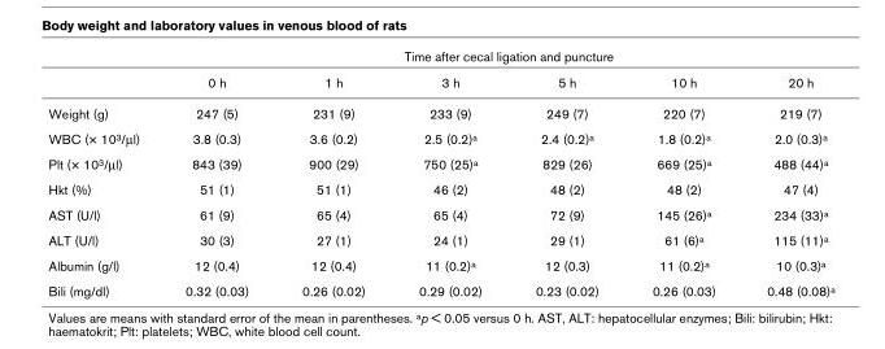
<table><thead><tr><td rowspan="2"></td><td colspan="6">Time after cecal ligation and puncture</td></tr><tr><td>0 h</td><td>1 h</td><td>3 h</td><td>5 h</td><td>10 h</td><td>20 h</td></tr></thead><tbody><tr><td>Weight (g)</td><td>247 (5)</td><td>231 (9)</td><td>233 (9)</td><td>249 (7)</td><td>220 (7)</td><td>219 (7)</td></tr><tr><td>WBC (× 103/µl)</td><td>3.8 (0.3)</td><td>3.6 (0.2)</td><td>2.5 (0.2)a</td><td>2.4 (0.2)a</td><td>1.8 (0.2)a</td><td>2.0 (0.3)a</td></tr><tr><td>Plt (× 103/µl)</td><td>843 (39)</td><td>900 (29)</td><td>750 (25)a</td><td>829 (26)</td><td>669 (25)a</td><td>488 (44)a</td></tr><tr><td>Hkt (%)</td><td>51 (1)</td><td>51 (1)</td><td>46 (2)</td><td>48 (2)</td><td>48 (2)</td><td>47 (4)</td></tr><tr><td>AST (U/l)</td><td>61 (9)</td><td>65 (4)</td><td>65 (4)</td><td>72 (9)</td><td>145 (26)a</td><td>234 (33)a</td></tr><tr><td>ALT (U/l)</td><td>30 (3)</td><td>27 (1)</td><td>24 (1)</td><td>29 (1)</td><td>61 (6)a</td><td>115 (11)a</td></tr><tr><td>Albumin (g/l)</td><td>12 (0.4)</td><td>12 (0.4)</td><td>11 (0.2)a</td><td>12 (0.3)</td><td>11 (0.2)a</td><td>10 (0.3)a</td></tr><tr><td>Bili (mg/dl)</td><td>0.32 (0.03)</td><td>0.26 (0.02)</td><td>0.29 (0.02)</td><td>0.23 (0.02)</td><td>0.26 (0.03)</td><td>0.48 (0.08)a</td></tr></tbody></table>